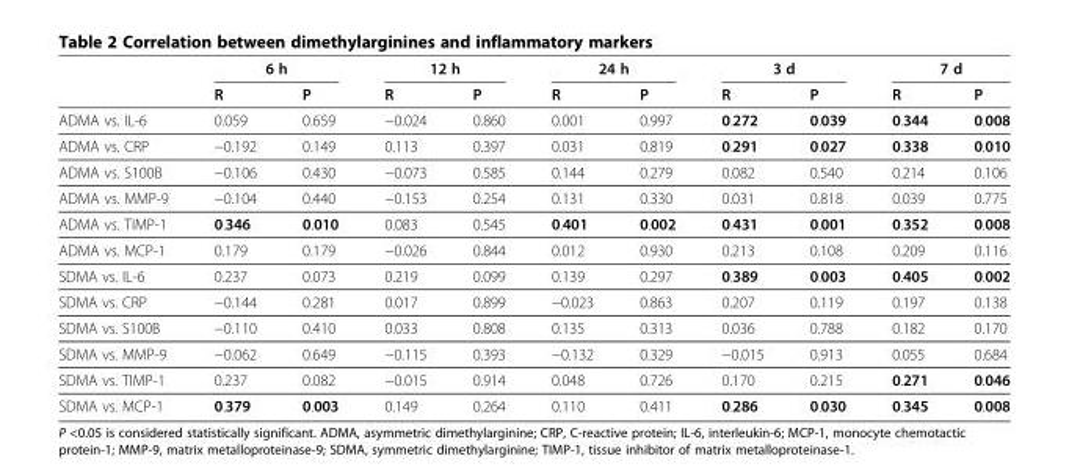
<table><thead><tr><td rowspan="2"></td><td colspan="2">6 h</td><td colspan="2">12 h</td><td colspan="2">24 h</td><td colspan="2">3 d</td><td colspan="2">7 d</td></tr><tr><td>R</td><td>P</td><td>R</td><td>P</td><td>R</td><td>P</td><td>R</td><td>P</td><td>R</td><td>P</td></tr></thead><tbody><tr><td>ADMA vs. IL-6</td><td>0.059</td><td>0.659</td><td>−0.024</td><td>0.860</td><td>0.001</td><td>0.997</td><td>0.272</td><td>0.039</td><td>0.344</td><td>0.008</td></tr><tr><td>ADMA vs. CRP</td><td>−0.192</td><td>0.149</td><td>0.113</td><td>0.397</td><td>0.031</td><td>0.819</td><td>0.291</td><td>0.027</td><td>0.338</td><td>0.010</td></tr><tr><td>ADMA vs. S100B</td><td>−0.106</td><td>0.430</td><td>−0.073</td><td>0.585</td><td>0.144</td><td>0.279</td><td>0.082</td><td>0.540</td><td>0.214</td><td>0.106</td></tr><tr><td>ADMA vs. MMP-9</td><td>−0.104</td><td>0.440</td><td>−0.153</td><td>0.254</td><td>0.131</td><td>0.330</td><td>0.031</td><td>0.818</td><td>0.039</td><td>0.775</td></tr><tr><td>ADMA vs. TIMP-1</td><td>0.346</td><td>0.010</td><td>0.083</td><td>0.545</td><td>0.401</td><td>0.002</td><td>0.431</td><td>0.001</td><td>0.352</td><td>0.008</td></tr><tr><td>ADMA vs. MCP-1</td><td>0.179</td><td>0.179</td><td>−0.026</td><td>0.844</td><td>0.012</td><td>0.930</td><td>0.213</td><td>0.108</td><td>0.209</td><td>0.116</td></tr><tr><td>SDMA vs. IL-6</td><td>0.237</td><td>0.073</td><td>0.219</td><td>0.099</td><td>0.139</td><td>0.297</td><td>0.389</td><td>0.003</td><td>0.405</td><td>0.002</td></tr><tr><td>SDMA vs. CRP</td><td>−0.144</td><td>0.281</td><td>0.017</td><td>0.899</td><td>−0.023</td><td>0.863</td><td>0.207</td><td>0.119</td><td>0.197</td><td>0.138</td></tr><tr><td>SDMA vs. S100B</td><td>−0.110</td><td>0.410</td><td>0.033</td><td>0.808</td><td>0.135</td><td>0.313</td><td>0.036</td><td>0.788</td><td>0.182</td><td>0.170</td></tr><tr><td>SDMA vs. MMP-9</td><td>−0.062</td><td>0.649</td><td>−0.115</td><td>0.393</td><td>−0.132</td><td>0.329</td><td>−0.015</td><td>0.913</td><td>0.055</td><td>0.684</td></tr><tr><td>SDMA vs. TIMP-1</td><td>0.237</td><td>0.082</td><td>−0.015</td><td>0.914</td><td>0.048</td><td>0.726</td><td>0.170</td><td>0.215</td><td>0.271</td><td>0.046</td></tr><tr><td>SDMA vs. MCP-1</td><td>0.379</td><td>0.003</td><td>0.149</td><td>0.264</td><td>0.110</td><td>0.411</td><td>0.286</td><td>0.030</td><td>0.345</td><td>0.008</td></tr></tbody></table>